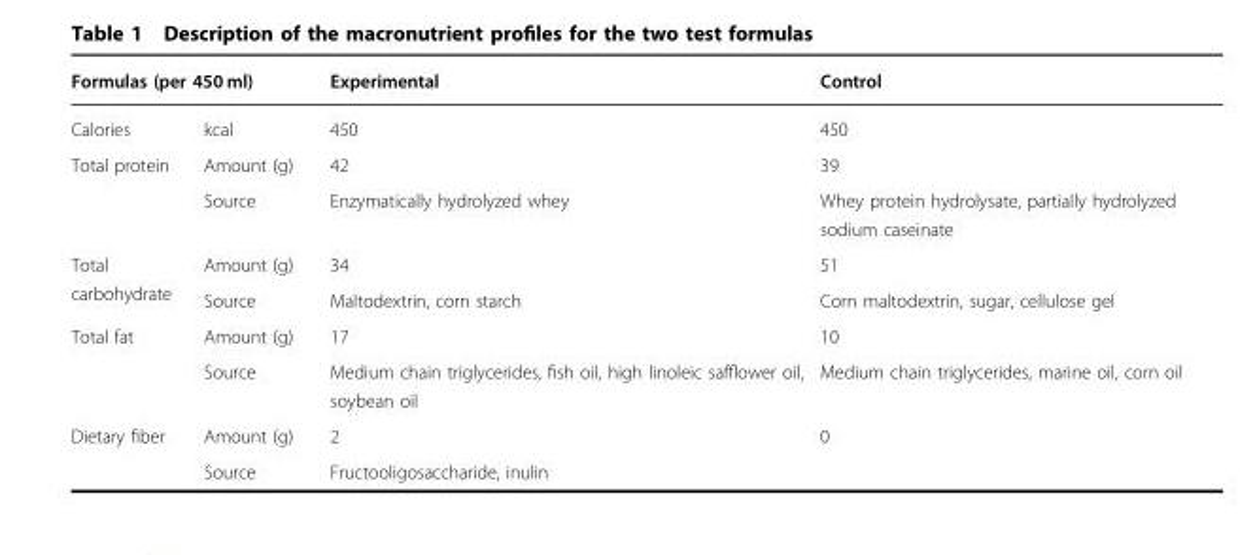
<table><thead><tr><td colspan="2">Formulas (per 450 ml)</td><td rowspan="2">Experimental 450</td><td rowspan="2">Control 450</td></tr><tr><td>Calories</td><td>kcal</td></tr></thead><tbody><tr><td rowspan="2">Total protein</td><td>Amount (g)</td><td>42</td><td>39</td></tr><tr><td>Source</td><td>Enzymatically hydrolyzed whey</td><td>Whey protein hydrolysate, partially hydrolyzed sodium caseinate</td></tr><tr><td rowspan="2">Total carbohydrate</td><td>Amount (g)</td><td>34</td><td>51</td></tr><tr><td>Source</td><td>Maltodextrin, corn starch</td><td>Corn maltodextrin, sugar, cellulose gel</td></tr><tr><td rowspan="2">Total fat</td><td>Amount (g)</td><td>17</td><td>10</td></tr><tr><td>Source</td><td>Medium chain triglycerides, fish oil, high linoleic safflower oil, soybean oil</td><td>Medium chain triglycerides, marine oil, corn oil</td></tr><tr><td rowspan="2">Dietary fiber</td><td>Amount (g)</td><td>2</td><td>0</td></tr><tr><td>Source</td><td>Fructooligosaccharide, inulin</td><td></td></tr></tbody></table>